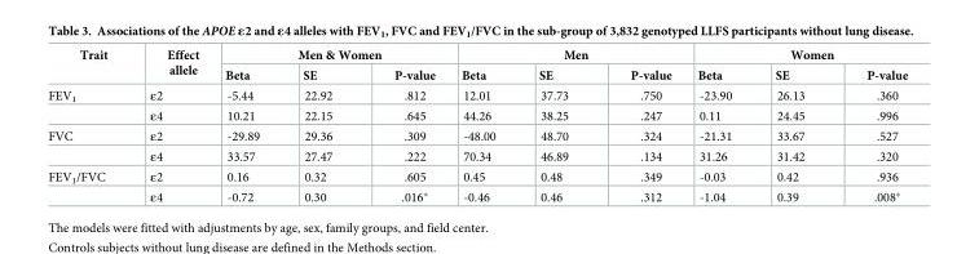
<table><thead><tr><td rowspan="2">Trait</td><td rowspan="2">Effect allele</td><td colspan="3">Men &amp; Women</td><td colspan="3">Men</td><td colspan="3">Women</td></tr><tr><td>Beta</td><td>SE</td><td>P-value</td><td>Beta</td><td>SE</td><td>P-value</td><td>Beta</td><td>SE</td><td>P-value</td></tr></thead><tbody><tr><td rowspan="2">FEV<sub>1</sub></td><td>ε2</td><td>-5.44</td><td>22.92</td><td>.812</td><td>12.01</td><td>37.73</td><td>.750</td><td>-23.90</td><td>26.13</td><td>.360</td></tr><tr><td>ε4</td><td>10.21</td><td>22.15</td><td>.645</td><td>44.26</td><td>38.25</td><td>.247</td><td>0.11</td><td>24.45</td><td>.996</td></tr><tr><td rowspan="2">FVC</td><td>ε2</td><td>-29.89</td><td>29.36</td><td>.309</td><td>-48.00</td><td>48.70</td><td>.324</td><td>-21.31</td><td>33.67</td><td>.527</td></tr><tr><td>ε4</td><td>33.57</td><td>27.47</td><td>.222</td><td>70.34</td><td>46.89</td><td>.134</td><td>31.26</td><td>31.42</td><td>.320</td></tr><tr><td rowspan="2">FEV<sub>1</sub>/FVC</td><td>ε2</td><td>0.16</td><td>0.32</td><td>.605</td><td>0.45</td><td>0.48</td><td>.349</td><td>-0.03</td><td>0.42</td><td>.936</td></tr><tr><td>ε4</td><td>-0.72</td><td>0.30</td><td>.016*</td><td>-0.46</td><td>0.46</td><td>.312</td><td>-1.04</td><td>0.39</td><td>.008*</td></tr></tbody></table>